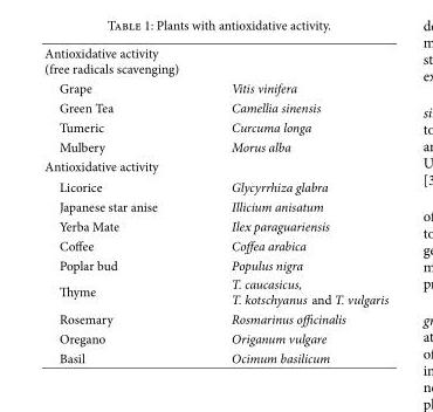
<table><tbody><tr><td colspan="2">Antioxidative activity (free radicals scavenging)</td></tr><tr><td>Grape</td><td>Vitis vinifera</td></tr><tr><td>Green Tea</td><td>Camellia sinensis</td></tr><tr><td>Tumeric</td><td>Curcuma longa</td></tr><tr><td>Mulbery</td><td>Morus alba</td></tr><tr><td colspan="2">Antioxidative activity</td></tr><tr><td>Licorice</td><td>Glycyrrhiza glabra</td></tr><tr><td>Japanese star anise</td><td>Illicium anisatum</td></tr><tr><td>Yerba Mate</td><td>Ilex paraguariensis</td></tr><tr><td>Coffee</td><td>Coffea arabica</td></tr><tr><td>Poplar bud</td><td>Populus nigra</td></tr><tr><td>yme</td><td>T. caucasicus, T. kotschyanus and T. vulgaris</td></tr><tr><td>Rosemary</td><td>Rosmarinus officinalis</td></tr><tr><td>Oregano</td><td>Origanum vulgare</td></tr><tr><td>Basil</td><td>Ocimum basilicum</td></tr></tbody></table>